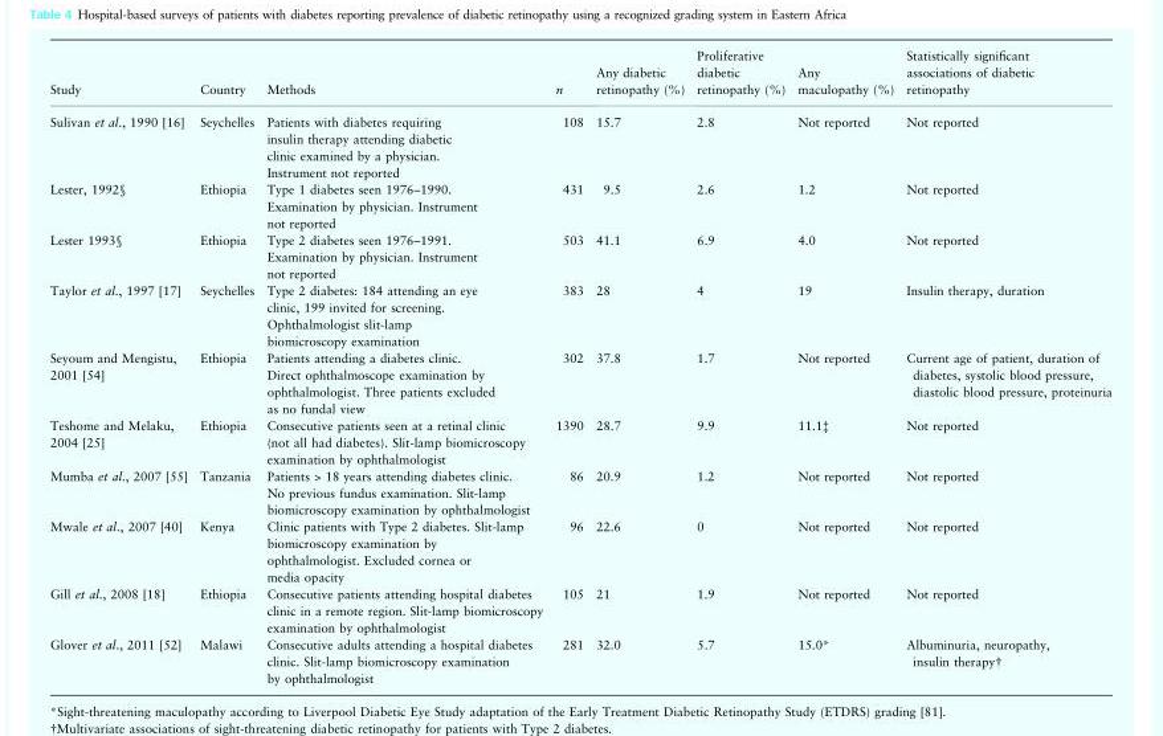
<table><thead><tr><td>Study</td><td>Country</td><td>Methods</td><td>n</td><td>Any diabetic retinopathy (%)</td><td>Proliferative diabetic retinopathy (%)</td><td>Any maculopathy (%)</td><td>Statistically significant associations of diabetic retinopathy</td></tr></thead><tbody><tr><td>Sulivan et al., 1990 [16]</td><td>Seychelles</td><td>Patients with diabetes requiring insulin therapy attending diabetic clinic examined by a physician. Instrument not reported</td><td>108</td><td>15.7</td><td>2.8</td><td>Not reported</td><td>Not reported</td></tr><tr><td>Lester, 1992§</td><td>Ethiopia</td><td>Type 1 diabetes seen 1976–1990. Examination by physician. Instrument not reported</td><td>431</td><td>9.5</td><td>2.6</td><td>1.2</td><td>Not reported</td></tr><tr><td>Lester 1993§</td><td>Ethiopia</td><td>Type 2 diabetes seen 1976–1991. Examination by physician. Instrument not reported</td><td>503</td><td>41.1</td><td>6.9</td><td>4.0</td><td>Not reported</td></tr><tr><td>Taylor et al., 1997 [17]</td><td>Seychelles</td><td>Type 2 diabetes: 184 attending an eye clinic, 199 invited for screening. Ophthalmologist slit-lamp biomicroscopy examination</td><td>383</td><td>28</td><td>4</td><td>19</td><td>Insulin therapy, duration</td></tr><tr><td>Seyoum and Mengistu, 2001 [54]</td><td>Ethiopia</td><td>Patients attending a diabetes clinic. Direct ophthalmoscope examination by ophthalmologist. Three patients excluded as no fundal view</td><td>302</td><td>37.8</td><td>1.7</td><td>Not reported</td><td>Current age of patient, duration of diabetes, systolic blood pressure, diastolic blood pressure, proteinuria</td></tr><tr><td>Teshome and Melaku, 2004 [25]</td><td>Ethiopia</td><td>Consecutive patients seen at a retinal clinic (not all had diabetes). Slit-lamp biomicroscopy examination by ophthalmologist</td><td>1390</td><td>28.7</td><td>9.9</td><td>11.1‡</td><td>Not reported</td></tr><tr><td>Mumba et al., 2007 [55]</td><td>Tanzania</td><td>Patients &gt; 18 years attending diabetes clinic. No previous fundus examination. Slit-lamp biomicroscopy examination by ophthalmologist</td><td>86</td><td>20.9</td><td>1.2</td><td>Not reported</td><td>Not reported</td></tr><tr><td>Mwale et al., 2007 [40]</td><td>Kenya</td><td>Clinic patients with Type 2 diabetes. Slit-lamp biomicroscopy examination by ophthalmologist. Excluded cornea or media opacity</td><td>96</td><td>22.6</td><td>0</td><td>Not reported</td><td>Not reported</td></tr><tr><td>Gill et al., 2008 [18]</td><td>Ethiopia</td><td>Consecutive patients attending hospital diabetes clinic in a remote region. Slit-lamp biomicroscopy examination by ophthalmologist</td><td>105</td><td>21</td><td>1.9</td><td>Not reported</td><td>Not reported</td></tr><tr><td>Glover et al., 2011 [52]</td><td>Malawi</td><td>Consecutive adults attending a hospital diabetes clinic. Slit-lamp biomicroscopy examination by ophthalmologist</td><td>281</td><td>32.0</td><td>5.7</td><td>15.0*</td><td>Albuminuria, neuropathy, insulin therapy†</td></tr></tbody></table>